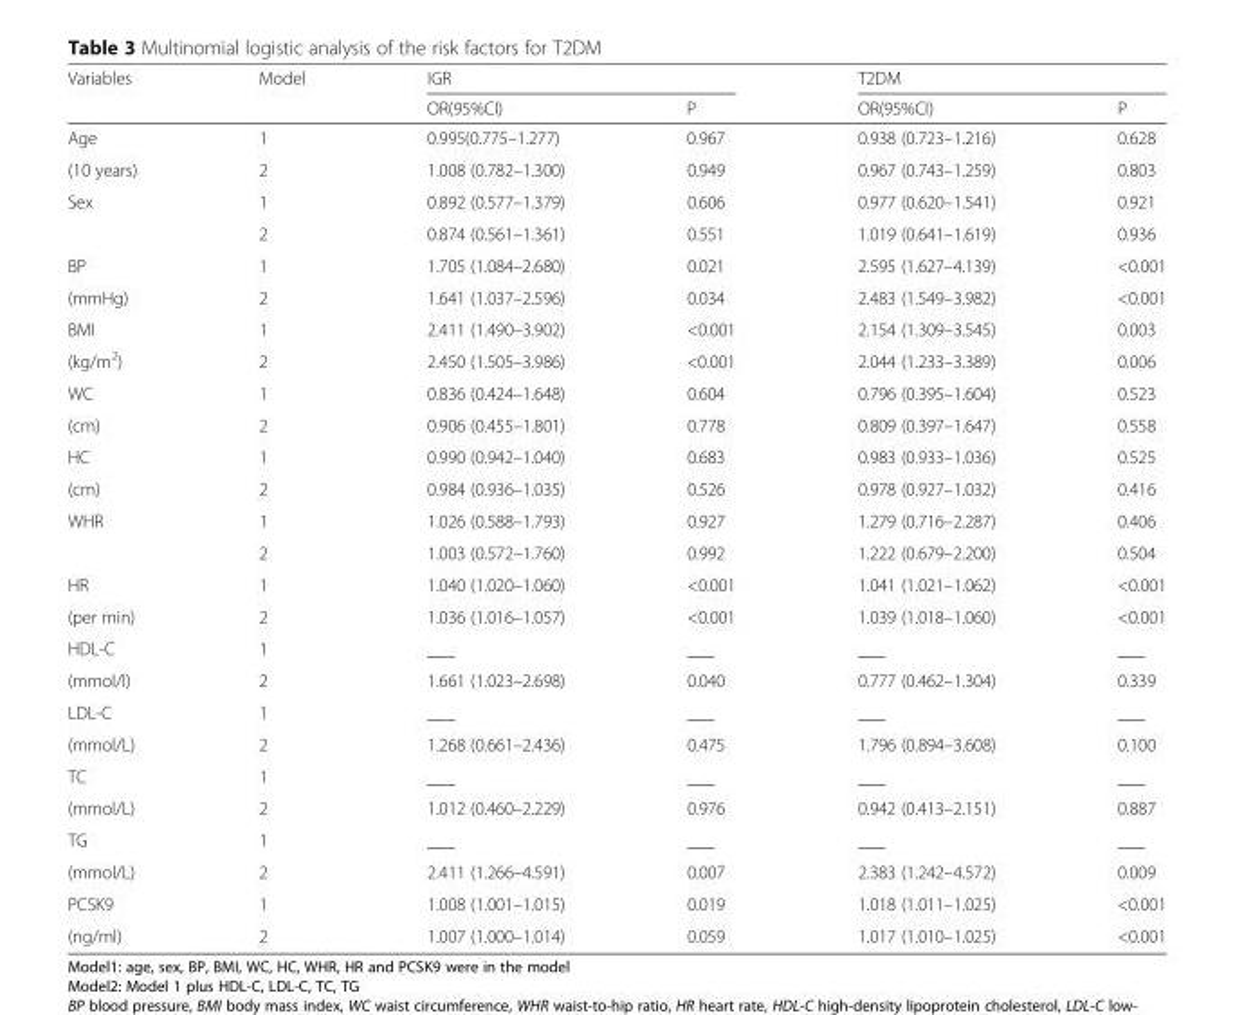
<table><thead><tr><td rowspan="2">Variables</td><td rowspan="2">Model</td><td colspan="2">IGR</td><td colspan="2">T2DM</td></tr><tr><td>OR(95%CI)</td><td>P</td><td>OR(95%CI)</td><td>P</td></tr></thead><tbody><tr><td>Age</td><td>1</td><td>0.995(0.775–1.277)</td><td>0.967</td><td>0.938 (0.723–1.216)</td><td>0.628</td></tr><tr><td>(10 years)</td><td>2</td><td>1.008 (0.782–1.300)</td><td>0.949</td><td>0.967 (0.743–1.259)</td><td>0.803</td></tr><tr><td rowspan="2">Sex</td><td>1</td><td>0.892 (0.577–1.379)</td><td>0.606</td><td>0.977 (0.620–1.541)</td><td>0.921</td></tr><tr><td>2</td><td>0.874 (0.561–1.361)</td><td>0.551</td><td>1.019 (0.641–1.619)</td><td>0.936</td></tr><tr><td>BP</td><td>1</td><td>1.705 (1.084–2.680)</td><td>0.021</td><td>2.595 (1.627–4.139)</td><td>&lt;0.001</td></tr><tr><td>(mmHg)</td><td>2</td><td>1.641 (1.037–2.596)</td><td>0.034</td><td>2.483 (1.549–3.982)</td><td>&lt;0.001</td></tr><tr><td>BMI</td><td>1</td><td>2.411 (1.490–3.902)</td><td>&lt;0.001</td><td>2.154 (1.309–3.545)</td><td>0.003</td></tr><tr><td>(kg/m<sup>2</sup>)</td><td>2</td><td>2.450 (1.505–3.986)</td><td>&lt;0.001</td><td>2.044 (1.233–3.389)</td><td>0.006</td></tr><tr><td>WC</td><td>1</td><td>0.836 (0.424–1.648)</td><td>0.604</td><td>0.796 (0.395–1.604)</td><td>0.523</td></tr><tr><td>(cm)</td><td>2</td><td>0.906 (0.455–1.801)</td><td>0.778</td><td>0.809 (0.397–1.647)</td><td>0.558</td></tr><tr><td>HC</td><td>1</td><td>0.990 (0.942–1.040)</td><td>0.683</td><td>0.983 (0.933–1.036)</td><td>0.525</td></tr><tr><td>(cm)</td><td>2</td><td>0.984 (0.936–1.035)</td><td>0.526</td><td>0.978 (0.927–1.032)</td><td>0.416</td></tr><tr><td rowspan="2">WHR</td><td>1</td><td>1.026 (0.588–1.793)</td><td>0.927</td><td>1.279 (0.716–2.287)</td><td>0.406</td></tr><tr><td>2</td><td>1.003 (0.572–1.760)</td><td>0.992</td><td>1.222 (0.679–2.200)</td><td>0.504</td></tr><tr><td>HR</td><td>1</td><td>1.040 (1.020–1.060)</td><td>&lt;0.001</td><td>1.041 (1.021–1.062)</td><td>&lt;0.001</td></tr><tr><td>(per min)</td><td>2</td><td>1.036 (1.016–1.057)</td><td>&lt;0.001</td><td>1.039 (1.018–1.060)</td><td>&lt;0.001</td></tr><tr><td>HDL-C</td><td>1</td><td>___</td><td>___</td><td>___</td><td>___</td></tr><tr><td>(mmol/l)</td><td>2</td><td>1.661 (1.023–2.698)</td><td>0.040</td><td>0.777 (0.462–1.304)</td><td>0.339</td></tr><tr><td>LDL-C</td><td>1</td><td>___</td><td>___</td><td>___</td><td>___</td></tr><tr><td>(mmol/L)</td><td>2</td><td>1.268 (0.661–2.436)</td><td>0.475</td><td>1.796 (0.894–3.608)</td><td>0.100</td></tr><tr><td>TC</td><td>1</td><td>___</td><td>___</td><td>___</td><td>___</td></tr><tr><td>(mmol/L)</td><td>2</td><td>1.012 (0.460–2.229)</td><td>0.976</td><td>0.942 (0.413–2.151)</td><td>0.887</td></tr><tr><td>TG</td><td>1</td><td>___</td><td>___</td><td>___</td><td>___</td></tr><tr><td>(mmol/L)</td><td>2</td><td>2.411 (1.266–4.591)</td><td>0.007</td><td>2.383 (1.242–4.572)</td><td>0.009</td></tr><tr><td>PCSK9</td><td>1</td><td>1.008 (1.001–1.015)</td><td>0.019</td><td>1.018 (1.011–1.025)</td><td>&lt;0.001</td></tr><tr><td>(ng/ml)</td><td>2</td><td>1.007 (1.000–1.014)</td><td>0.059</td><td>1.017 (1.010–1.025)</td><td>&lt;0.001</td></tr></tbody></table>